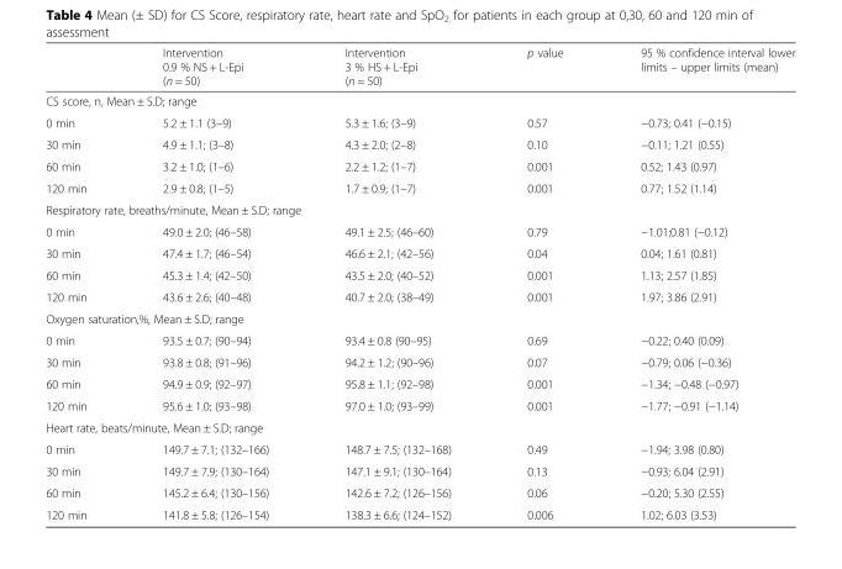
<table><thead><tr><td></td><td>Intervention 0.9 % NS + L-Epi (n = 50)</td><td>Intervention 3 % HS + L-Epi (n = 50)</td><td>p value</td><td>95 % confidence interval lower limits – upper limits (mean)</td></tr></thead><tbody><tr><td colspan="5">CS score, n, Mean ± S.D; range</td></tr><tr><td>0 min</td><td>5.2 ± 1.1 (3–9)</td><td>5.3 ± 1.6; (3–9)</td><td>0.57</td><td>−0.73; 0.41 (−0.15)</td></tr><tr><td>30 min</td><td>4.9 ± 1.1; (3–8)</td><td>4.3 ± 2.0; (2–8)</td><td>0.10</td><td>−0.11; 1.21 (0.55)</td></tr><tr><td>60 min</td><td>3.2 ± 1.0; (1–6)</td><td>2.2 ± 1.2; (1–7)</td><td>0.001</td><td>0.52; 1.43 (0.97)</td></tr><tr><td>120 min</td><td>2.9 ± 0.8; (1–5)</td><td>1.7 ± 0.9; (1–7)</td><td>0.001</td><td>0.77; 1.52 (1.14)</td></tr><tr><td colspan="5">Respiratory rate, breaths/minute, Mean ± S.D; range</td></tr><tr><td>0 min</td><td>49.0 ± 2.0; (46–58)</td><td>49.1 ± 2.5; (46–60)</td><td>0.79</td><td>−1.01;0.81 (−0.12)</td></tr><tr><td>30 min</td><td>47.4 ± 1.7; (46–54)</td><td>46.6 ± 2.1; (42–56)</td><td>0.04</td><td>0.04; 1.61 (0.81)</td></tr><tr><td>60 min</td><td>45.3 ± 1.4; (42–50)</td><td>43.5 ± 2.0; (40–52)</td><td>0.001</td><td>1.13; 2.57 (1.85)</td></tr><tr><td>120 min</td><td>43.6 ± 2.6; (40–48)</td><td>40.7 ± 2.0; (38–49)</td><td>0.001</td><td>1.97; 3.86 (2.91)</td></tr><tr><td colspan="5">Oxygen saturation,%, Mean ± S.D; range</td></tr><tr><td>0 min</td><td>93.5 ± 0.7; (90–94)</td><td>93.4 ± 0.8 (90–95)</td><td>0.69</td><td>−0.22; 0.40 (0.09)</td></tr><tr><td>30 min</td><td>93.8 ± 0.8; (91–96)</td><td>94.2 ± 1.2; (90–96)</td><td>0.07</td><td>−0.79; 0.06 (−0.36)</td></tr><tr><td>60 min</td><td>94.9 ± 0.9; (92–97)</td><td>95.8 ± 1.1; (92–98)</td><td>0.001</td><td>−1.34; −0.48 (−0.97)</td></tr><tr><td>120 min</td><td>95.6 ± 1.0; (93–98)</td><td>97.0 ± 1.0; (93–99)</td><td>0.001</td><td>−1.77; −0.91 (−1.14)</td></tr><tr><td colspan="5">Heart rate, beats/minute, Mean ± S.D; range</td></tr><tr><td>0 min</td><td>149.7 ± 7.1; (132–166)</td><td>148.7 ± 7.5; (132–168)</td><td>0.49</td><td>−1.94; 3.98 (0.80)</td></tr><tr><td>30 min</td><td>149.7 ± 7.9; (130–164)</td><td>147.1 ± 9.1; (130–164)</td><td>0.13</td><td>−0.93; 6.04 (2.91)</td></tr><tr><td>60 min</td><td>145.2 ± 6.4; (130–156)</td><td>142.6 ± 7.2; (126–156)</td><td>0.06</td><td>−0.20; 5.30 (2.55)</td></tr><tr><td>120 min</td><td>141.8 ± 5.8; (126–154)</td><td>138.3 ± 6.6; (124–152)</td><td>0.006</td><td>1.02; 6.03 (3.53)</td></tr></tbody></table>